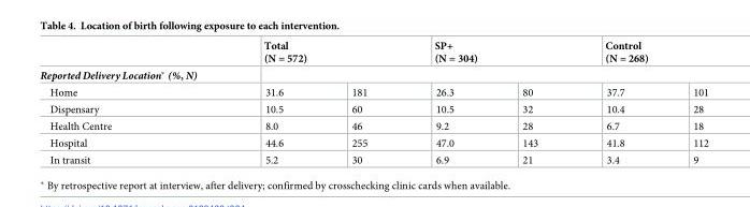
<table><thead><tr><td rowspan="3">Reported Delivery Location* (%, N) Home</td><td colspan="2">Total (N = 572)</td><td colspan="2">SP+ (N = 304)</td><td colspan="2">Control (N = 268)</td></tr><tr><td colspan="6"></td></tr><tr><td>31.6</td><td>181</td><td>26.3</td><td>80</td><td>37.7</td><td>101</td></tr></thead><tbody><tr><td>Dispensary</td><td>10.5</td><td>60</td><td>10.5</td><td>32</td><td>10.4</td><td>28</td></tr><tr><td>Health Centre</td><td>8.0</td><td>46</td><td>9.2</td><td>28</td><td>6.7</td><td>18</td></tr><tr><td>Hospital</td><td>44.6</td><td>255</td><td>47.0</td><td>143</td><td>41.8</td><td>112</td></tr><tr><td>In transit</td><td>5.2</td><td>30</td><td>6.9</td><td>21</td><td>3.4</td><td>9</td></tr></tbody></table>